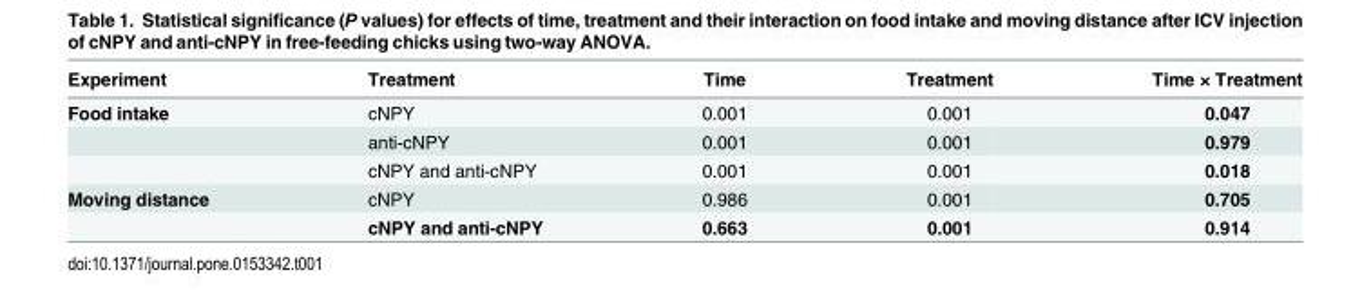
<table><thead><tr><td>Experiment</td><td>Treatment</td><td>Time</td><td>Treatment</td><td>Time × Treatment</td></tr></thead><tbody><tr><td rowspan="3">Food intake</td><td>cNPY</td><td>0.001</td><td>0.001</td><td>0.047</td></tr><tr><td>anti-cNPY</td><td>0.001</td><td>0.001</td><td>0.979</td></tr><tr><td>cNPY and anti-cNPY</td><td>0.001</td><td>0.001</td><td>0.018</td></tr><tr><td rowspan="2">Moving distance</td><td>cNPY</td><td>0.986</td><td>0.001</td><td>0.705</td></tr><tr><td>cNPY and anti-cNPY</td><td>0.663</td><td>0.001</td><td>0.914</td></tr></tbody></table>